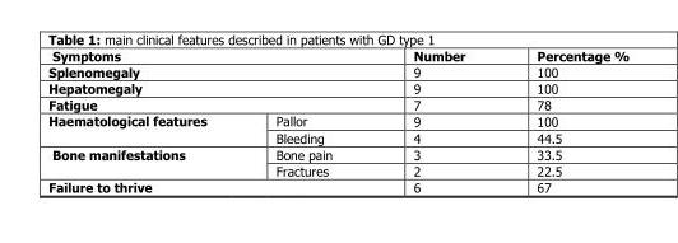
<table><thead><tr><td colspan="2">Symptoms</td><td>Number</td><td>Percentage %</td></tr></thead><tbody><tr><td colspan="2">Splenomegaly</td><td>9</td><td>100</td></tr><tr><td colspan="2">Hepatomegaly</td><td>9</td><td>100</td></tr><tr><td colspan="2">Fatigue</td><td>7</td><td>78</td></tr><tr><td rowspan="2">Haematological features</td><td>Pallor</td><td>9</td><td>100</td></tr><tr><td>Bleeding</td><td>4</td><td>44.5</td></tr><tr><td rowspan="2">Bone manifestations</td><td>Bone pain</td><td>3</td><td>33.5</td></tr><tr><td>Fractures</td><td>2</td><td>22.5</td></tr><tr><td>Failure to thrive</td><td></td><td>6</td><td>67</td></tr></tbody></table>